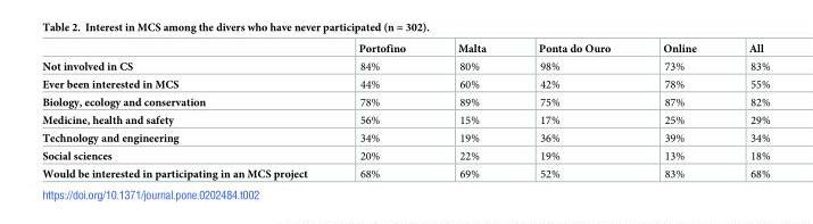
<table><thead><tr><td></td><td>Portofino</td><td>Malta</td><td>Ponta do Ouro</td><td>Online</td><td>All</td></tr></thead><tbody><tr><td>Not involved in CS</td><td>84%</td><td>80%</td><td>98%</td><td>73%</td><td>83%</td></tr><tr><td>Ever been interested in MCS</td><td>44%</td><td>60%</td><td>42%</td><td>78%</td><td>55%</td></tr><tr><td>Biology, ecology and conservation</td><td>78%</td><td>89%</td><td>75%</td><td>87%</td><td>82%</td></tr><tr><td>Medicine, health and safety</td><td>56%</td><td>15%</td><td>17%</td><td>25%</td><td>29%</td></tr><tr><td>Technology and engineering</td><td>34%</td><td>19%</td><td>36%</td><td>39%</td><td>34%</td></tr><tr><td>Social sciences</td><td>20%</td><td>22%</td><td>19%</td><td>13%</td><td>18%</td></tr><tr><td>Would be interested in participating in an MCS project</td><td>68%</td><td>69%</td><td>52%</td><td>83%</td><td>68%</td></tr></tbody></table>